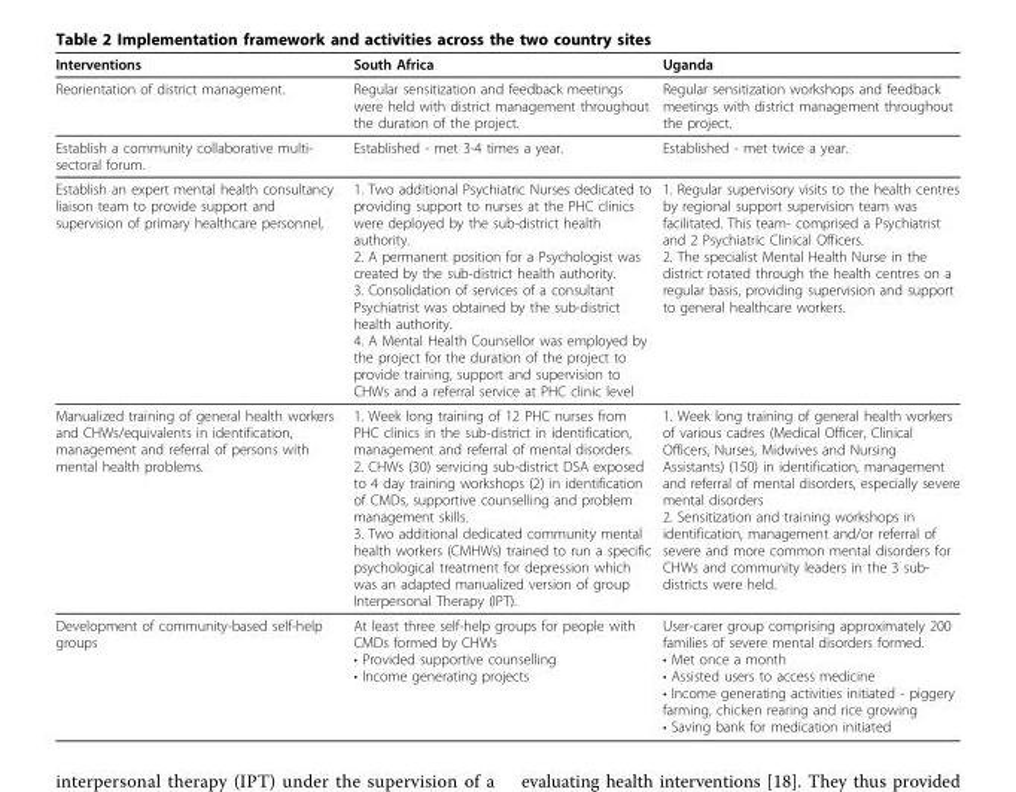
<table><thead><tr><td>Interventions</td><td>South Africa</td><td>Uganda</td></tr></thead><tbody><tr><td>Reorientation of district management.</td><td>Regular sensitization and feedback meetings were held with district management throughout the duration of the project.</td><td>Regular sensitization workshops and feedback meetings with district management throughout the project.</td></tr><tr><td>Establish a community collaborative multi- sectoral forum.</td><td>Established - met 3-4 times a year.</td><td>Established - met twice a year.</td></tr><tr><td>Establish an expert mental health consultancy liaison team to provide support and supervision of primary healthcare personnel,</td><td>1. Two additional Psychiatric Nurses dedicated to providing support to nurses at the PHC clinics were deployed by the sub-district health authority. 2. A permanent position for a Psychologist was created by the sub-district health authority. 3. Consolidation of services of a consultant Psychiatrist was obtained by the sub-district health authority. 4. A Mental Health Counsellor was employed by the project for the duration of the project to provide training, support and supervision to CHWs and a referral service at PHC clinic level</td><td>1. Regular supervisory visits to the health centres by regional support supervision team was facilitated. This team- comprised a Psychiatrist and 2 Psychiatric Clinical Officers. 2. The specialist Mental Health Nurse in the district rotated through the health centres on a regular basis, providing supervision and support to general healthcare workers.</td></tr><tr><td>Manualized training of general health workers and CHWs/equivalents in identification, management and referral of persons with mental health problems.</td><td>1. Week long training of 12 PHC nurses from PHC clinics in the sub-district in identification, management and referral of mental disorders. 2. CHWs (30) servicing sub-district DSA exposed to 4 day training workshops (2) in identification of CMDs, supportive counselling and problem management skills. 3. Two additional dedicated community mental health workers (CMHWs) trained to run a specific psychological treatment for depression which was an adapted manualized version of group Interpersonal Therapy (IPT).</td><td>1. Week long training of general health workers of various cadres (Medical Officer, Clinical Officers, Nurses, Midwives and Nursing Assistants) (150) in identification, management and referral of mental disorders, especially severe mental disorders 2. Sensitization and training workshops in identification, management and/or referral of severe and more common mental disorders for CHWs and community leaders in the 3 sub- districts were held.</td></tr><tr><td>Development of community-based self-help groups</td><td>At least three self-help groups for people with CMDs formed by CHWs • Provided supportive counselling • Income generating projects</td><td>User-carer group comprising approximately 200 families of severe mental disorders formed. • Met once a month • Assisted users to access medicine • Income generating activities initiated - piggery farming, chicken rearing and rice growing • Saving bank for medication initiated</td></tr></tbody></table>